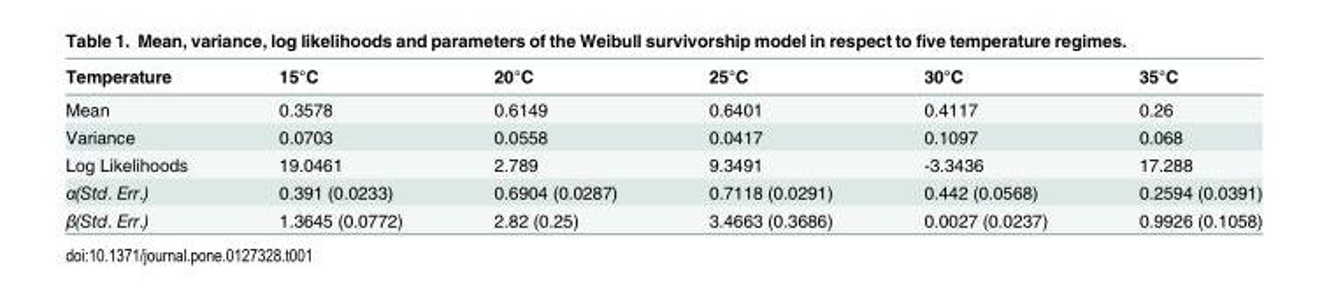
<table><thead><tr><td>Temperature</td><td>15°C</td><td>20°C</td><td>25°C</td><td>30°C</td><td>35°C</td></tr></thead><tbody><tr><td>Mean</td><td>0.3578</td><td>0.6149</td><td>0.6401</td><td>0.4117</td><td>0.26</td></tr><tr><td>Variance</td><td>0.0703</td><td>0.0558</td><td>0.0417</td><td>0.1097</td><td>0.068</td></tr><tr><td>Log Likelihoods</td><td>19.0461</td><td>2.789</td><td>9.3491</td><td>-3.3436</td><td>17.288</td></tr><tr><td>α(Std. Err.)</td><td>0.391 (0.0233)</td><td>0.6904 (0.0287)</td><td>0.7118 (0.0291)</td><td>0.442 (0.0568)</td><td>0.2594 (0.0391)</td></tr><tr><td>β(Std. Err.)</td><td>1.3645 (0.0772)</td><td>2.82 (0.25)</td><td>3.4663 (0.3686)</td><td>0.0027 (0.0237)</td><td>0.9926 (0.1058)</td></tr></tbody></table>